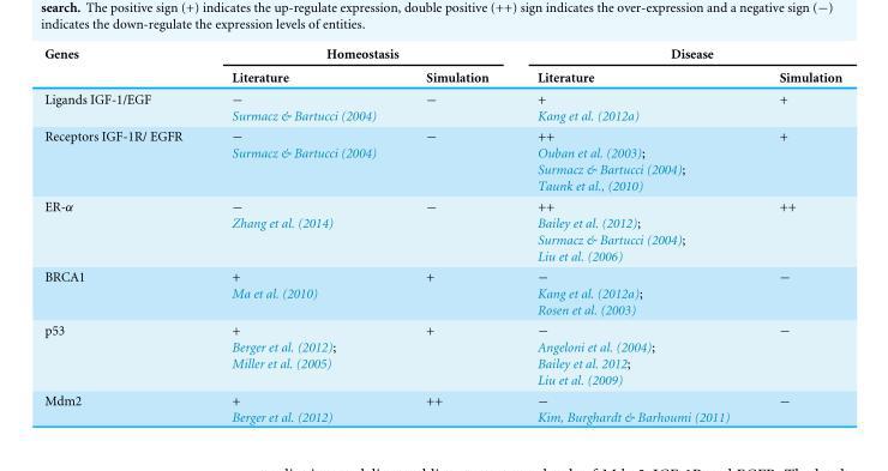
<table><thead><tr><td rowspan="2">Genes</td><td colspan="2">Homeostasis</td><td colspan="2">Disease</td></tr><tr><td>Literature</td><td>Simulation</td><td>Literature</td><td>Simulation</td></tr></thead><tbody><tr><td>Ligands IGF-1/EGF</td><td>− Surmacz &amp; Bartucci (2004)</td><td>−</td><td>+ Kang et al. (2012a)</td><td>+</td></tr><tr><td>Receptors IGF-1R/ EGFR</td><td>− Surmacz &amp; Bartucci (2004)</td><td>−</td><td>++ Ouban et al. (2003); Surmacz &amp; Bartucci (2004); Taunk et al., (2010)</td><td>+</td></tr><tr><td>ER-α</td><td>− Zhang et al. (2014)</td><td>−</td><td>++ Bailey et al. (2012); Surmacz &amp; Bartucci (2004); Liu et al. (2006)</td><td>++</td></tr><tr><td>BRCA1</td><td>+ Ma et al. (2010)</td><td>+</td><td>− Kang et al. (2012a); Rosen et al. (2003)</td><td>−</td></tr><tr><td>p53</td><td>+ Berger et al. (2012); Miller et al. (2005)</td><td>+</td><td>− Angeloni et al. (2004); Bailey et al. 2012; Liu et al. (2009)</td><td>−</td></tr><tr><td>Mdm2</td><td>+ Berger et al. (2012)</td><td>++</td><td>− Kim, Burghardt &amp; Barhoumi (2011)</td><td>−</td></tr></tbody></table>